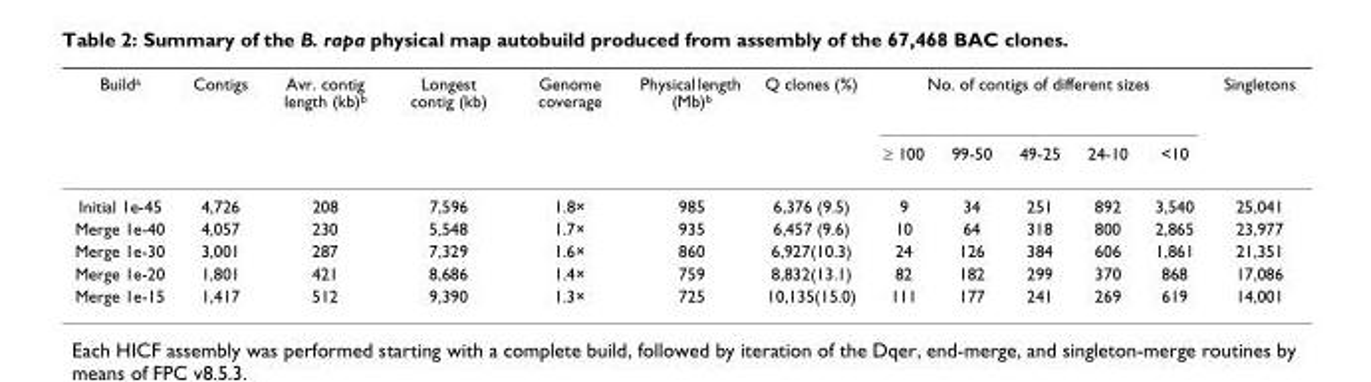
<table><thead><tr><td rowspan="2">Build<sup>a</sup></td><td rowspan="2">Contigs</td><td rowspan="2">Avr. contig length (kb)<sup>b</sup></td><td rowspan="2">Longest contig (kb)</td><td rowspan="2">Genome coverage</td><td rowspan="2">Physical length (Mb)<sup>b</sup></td><td rowspan="2">Q clones (%)</td><td colspan="5">No. of contigs of different sizes</td><td rowspan="2">Singletons</td></tr><tr><td>≥ 100</td><td>99-50</td><td>49-25</td><td>24-10</td><td>&lt;10</td></tr></thead><tbody><tr><td>Initial 1e-45</td><td>4,726</td><td>208</td><td>7,596</td><td>1.8×</td><td>985</td><td>6,376 (9.5)</td><td>9</td><td>34</td><td>251</td><td>892</td><td>3,540</td><td>25,041</td></tr><tr><td>Merge 1e-40</td><td>4,057</td><td>230</td><td>5,548</td><td>1.7×</td><td>935</td><td>6,457 (9.6)</td><td>10</td><td>64</td><td>318</td><td>800</td><td>2,865</td><td>23,977</td></tr><tr><td>Merge 1e-30</td><td>3,001</td><td>287</td><td>7,329</td><td>1.6×</td><td>860</td><td>6,927(10.3)</td><td>24</td><td>126</td><td>384</td><td>606</td><td>1,861</td><td>21,351</td></tr><tr><td>Merge 1e-20</td><td>1,801</td><td>421</td><td>8,686</td><td>1.4×</td><td>759</td><td>8,832(13.1)</td><td>82</td><td>182</td><td>299</td><td>370</td><td>868</td><td>17,086</td></tr><tr><td>Merge 1e-15</td><td>1,417</td><td>512</td><td>9,390</td><td>1.3×</td><td>725</td><td>10,135(15.0)</td><td>111</td><td>177</td><td>241</td><td>269</td><td>619</td><td>14,001</td></tr></tbody></table>